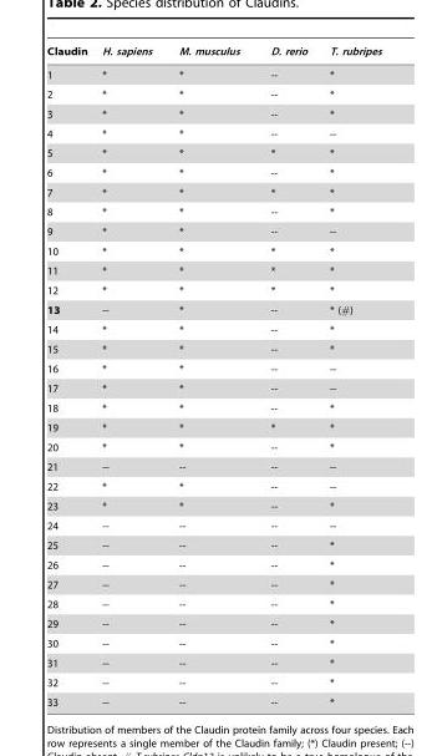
<table><thead><tr><td>Claudin</td><td>H. sapiens</td><td>M. musculus</td><td>D. rerio</td><td>T. rubripes</td></tr></thead><tbody><tr><td>1</td><td>*</td><td>*</td><td>--</td><td>*</td></tr><tr><td>2</td><td>*</td><td>*</td><td>--</td><td>*</td></tr><tr><td>3</td><td>*</td><td>*</td><td>--</td><td>*</td></tr><tr><td>4</td><td>*</td><td>*</td><td>--</td><td>--</td></tr><tr><td>5</td><td>*</td><td>*</td><td>*</td><td>*</td></tr><tr><td>6</td><td>*</td><td>*</td><td>--</td><td>*</td></tr><tr><td>7</td><td>*</td><td>*</td><td>*</td><td>*</td></tr><tr><td>8</td><td>*</td><td>*</td><td>--</td><td>*</td></tr><tr><td>9</td><td>*</td><td>*</td><td>--</td><td>--</td></tr><tr><td>10</td><td>*</td><td>*</td><td>*</td><td>*</td></tr><tr><td>11</td><td>*</td><td>*</td><td>*</td><td>*</td></tr><tr><td>12</td><td>*</td><td>*</td><td>*</td><td>*</td></tr><tr><td>13</td><td>--</td><td>*</td><td>--</td><td>* (#)</td></tr><tr><td>14</td><td>*</td><td>*</td><td>--</td><td>*</td></tr><tr><td>15</td><td>*</td><td>*</td><td>--</td><td>*</td></tr><tr><td>16</td><td>*</td><td>*</td><td>--</td><td>--</td></tr><tr><td>17</td><td>*</td><td>*</td><td>--</td><td>--</td></tr><tr><td>18</td><td>*</td><td>*</td><td>--</td><td>*</td></tr><tr><td>19</td><td>*</td><td>*</td><td>*</td><td>*</td></tr><tr><td>20</td><td>*</td><td>*</td><td>--</td><td>*</td></tr><tr><td>21</td><td>--</td><td>--</td><td>--</td><td>--</td></tr><tr><td>22</td><td>*</td><td>*</td><td>--</td><td>--</td></tr><tr><td>23</td><td>*</td><td>*</td><td>--</td><td>*</td></tr><tr><td>24</td><td>--</td><td>--</td><td>--</td><td>--</td></tr><tr><td>25</td><td>--</td><td>--</td><td>--</td><td>*</td></tr><tr><td>26</td><td>--</td><td>--</td><td>--</td><td>*</td></tr><tr><td>27</td><td>--</td><td>--</td><td>--</td><td>*</td></tr><tr><td>28</td><td>--</td><td>--</td><td>--</td><td>*</td></tr><tr><td>29</td><td>--</td><td>--</td><td>--</td><td>*</td></tr><tr><td>30</td><td>--</td><td>--</td><td>--</td><td>*</td></tr><tr><td>31</td><td>--</td><td>--</td><td>--</td><td>*</td></tr><tr><td>32</td><td>--</td><td>--</td><td>--</td><td>*</td></tr><tr><td>33</td><td>--</td><td>--</td><td>--</td><td>*</td></tr></tbody></table>